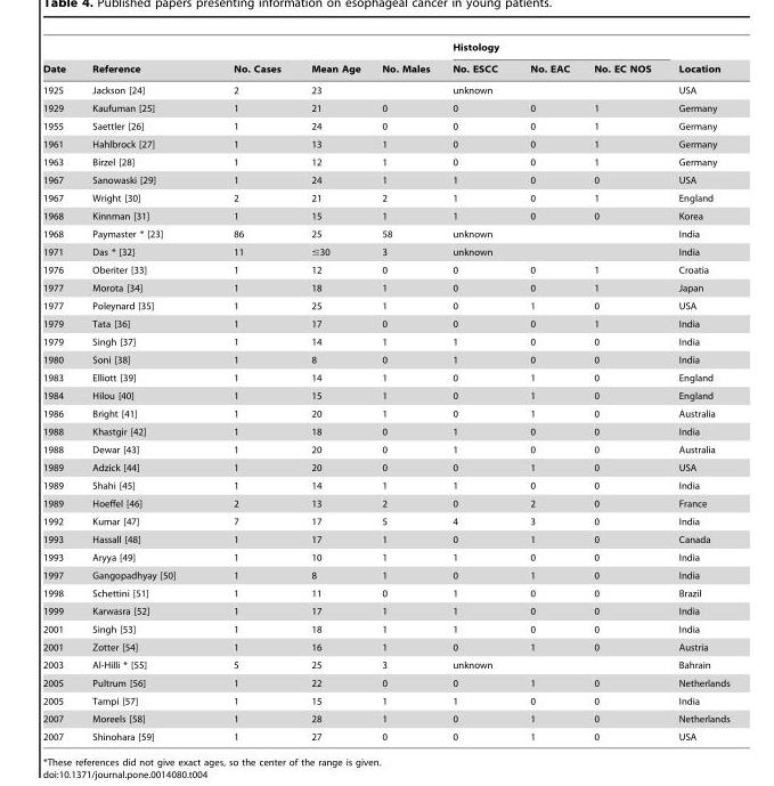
<table><thead><tr><td rowspan="2">Date</td><td rowspan="2">Reference</td><td rowspan="2">No. Cases</td><td rowspan="2">Mean Age</td><td rowspan="2">No. Males</td><td colspan="3">Histology</td><td rowspan="2">Location</td></tr><tr><td>No. ESCC</td><td>No. EAC</td><td>No. EC NOS</td></tr></thead><tbody><tr><td>1925</td><td>Jackson [24]</td><td>2</td><td>23</td><td></td><td colspan="3">unknown</td><td>USA</td></tr><tr><td>1929</td><td>Kaufuman [25]</td><td>1</td><td>21</td><td>0</td><td>0</td><td>0</td><td>1</td><td>Germany</td></tr><tr><td>1955</td><td>Saettler [26]</td><td>1</td><td>24</td><td>0</td><td>0</td><td>0</td><td>1</td><td>Germany</td></tr><tr><td>1961</td><td>Hahlbrock [27]</td><td>1</td><td>13</td><td>1</td><td>0</td><td>0</td><td>1</td><td>Germany</td></tr><tr><td>1963</td><td>Birzel [28]</td><td>1</td><td>12</td><td>1</td><td>0</td><td>0</td><td>1</td><td>Germany</td></tr><tr><td>1967</td><td>Sanowaski [29]</td><td>1</td><td>24</td><td>1</td><td>1</td><td>0</td><td>0</td><td>USA</td></tr><tr><td>1967</td><td>Wright [30]</td><td>2</td><td>21</td><td>2</td><td>1</td><td>0</td><td>1</td><td>England</td></tr><tr><td>1968</td><td>Kinnman [31]</td><td>1</td><td>15</td><td>1</td><td>1</td><td>0</td><td>0</td><td>Korea</td></tr><tr><td>1968</td><td>Paymaster * [23]</td><td>86</td><td>25</td><td>58</td><td colspan="3">unknown</td><td>India</td></tr><tr><td>1971</td><td>Das * [32]</td><td>11</td><td>≤30</td><td>3</td><td colspan="3">unknown</td><td>India</td></tr><tr><td>1976</td><td>Oberiter [33]</td><td>1</td><td>12</td><td>0</td><td>0</td><td>0</td><td>1</td><td>Croatia</td></tr><tr><td>1977</td><td>Morota [34]</td><td>1</td><td>18</td><td>1</td><td>0</td><td>0</td><td>1</td><td>Japan</td></tr><tr><td>1977</td><td>Poleynard [35]</td><td>1</td><td>25</td><td>1</td><td>0</td><td>1</td><td>0</td><td>USA</td></tr><tr><td>1979</td><td>Tata [36]</td><td>1</td><td>17</td><td>0</td><td>0</td><td>0</td><td>1</td><td>India</td></tr><tr><td>1979</td><td>Singh [37]</td><td>1</td><td>14</td><td>1</td><td>1</td><td>0</td><td>0</td><td>India</td></tr><tr><td>1980</td><td>Soni [38]</td><td>1</td><td>8</td><td>0</td><td>1</td><td>0</td><td>0</td><td>India</td></tr><tr><td>1983</td><td>Elliott [39]</td><td>1</td><td>14</td><td>1</td><td>0</td><td>1</td><td>0</td><td>England</td></tr><tr><td>1984</td><td>Hilou [40]</td><td>1</td><td>15</td><td>1</td><td>0</td><td>1</td><td>0</td><td>England</td></tr><tr><td>1986</td><td>Bright [41]</td><td>1</td><td>20</td><td>1</td><td>0</td><td>1</td><td>0</td><td>Australia</td></tr><tr><td>1988</td><td>Khastgir [42]</td><td>1</td><td>18</td><td>0</td><td>1</td><td>0</td><td>0</td><td>India</td></tr><tr><td>1988</td><td>Dewar [43]</td><td>1</td><td>20</td><td>0</td><td>1</td><td>0</td><td>0</td><td>Australia</td></tr><tr><td>1989</td><td>Adzick [44]</td><td>1</td><td>20</td><td>0</td><td>0</td><td>1</td><td>0</td><td>USA</td></tr><tr><td>1989</td><td>Shahi [45]</td><td>1</td><td>14</td><td>1</td><td>1</td><td>0</td><td>0</td><td>India</td></tr><tr><td>1989</td><td>Hoeffel [46]</td><td>2</td><td>13</td><td>2</td><td>0</td><td>2</td><td>0</td><td>France</td></tr><tr><td>1992</td><td>Kumar [47]</td><td>7</td><td>17</td><td>5</td><td>4</td><td>3</td><td>0</td><td>India</td></tr><tr><td>1993</td><td>Hassall [48]</td><td>1</td><td>17</td><td>1</td><td>0</td><td>1</td><td>0</td><td>Canada</td></tr><tr><td>1993</td><td>Aryya [49]</td><td>1</td><td>10</td><td>1</td><td>1</td><td>0</td><td>0</td><td>India</td></tr><tr><td>1997</td><td>Gangopadhyay [50]</td><td>1</td><td>8</td><td>1</td><td>0</td><td>1</td><td>0</td><td>India</td></tr><tr><td>1998</td><td>Schettini [51]</td><td>1</td><td>11</td><td>0</td><td>1</td><td>0</td><td>0</td><td>Brazil</td></tr><tr><td>1999</td><td>Karwasra [52]</td><td>1</td><td>17</td><td>1</td><td>1</td><td>0</td><td>0</td><td>India</td></tr><tr><td>2001</td><td>Singh [53]</td><td>1</td><td>18</td><td>1</td><td>1</td><td>0</td><td>0</td><td>India</td></tr><tr><td>2001</td><td>Zotter [54]</td><td>1</td><td>16</td><td>1</td><td>0</td><td>1</td><td>0</td><td>Austria</td></tr><tr><td>2003</td><td>Al-Hilli * [55]</td><td>5</td><td>25</td><td>3</td><td colspan="3">unknown</td><td>Bahrain</td></tr><tr><td>2005</td><td>Pultrum [56]</td><td>1</td><td>22</td><td>0</td><td>0</td><td>1</td><td>0</td><td>Netherlands</td></tr><tr><td>2005</td><td>Tampi [57]</td><td>1</td><td>15</td><td>1</td><td>1</td><td>0</td><td>0</td><td>India</td></tr><tr><td>2007</td><td>Moreels [58]</td><td>1</td><td>28</td><td>1</td><td>0</td><td>1</td><td>0</td><td>Netherlands</td></tr><tr><td>2007</td><td>Shinohara [59]</td><td>1</td><td>27</td><td>0</td><td>0</td><td>1</td><td>0</td><td>USA</td></tr></tbody></table>